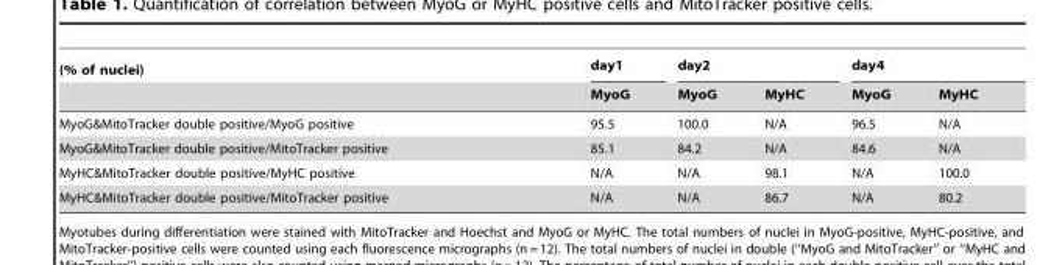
<table><thead><tr><td rowspan="2">(% of nuclei)</td><td rowspan="2">day1 MyoG</td><td colspan="2">day2</td><td colspan="2">day4</td></tr><tr><td>MyoG</td><td>MyHC</td><td>MyoG</td><td>MyHC</td></tr></thead><tbody><tr><td>MyoG&amp;MitoTracker double positive/MyoG positive</td><td>95.5</td><td>100.0</td><td>N/A</td><td>96.5</td><td>N/A</td></tr><tr><td>MyoG&amp;MitoTracker double positive/MitoTracker positive</td><td>85.1</td><td>84.2</td><td>N/A</td><td>84.6</td><td>N/A</td></tr><tr><td>MyHC&amp;MitoTracker double positive/MyHC positive</td><td>N/A</td><td>N/A</td><td>98.1</td><td>N/A</td><td>100.0</td></tr><tr><td>MyHC&amp;MitoTracker double positive/MitoTracker positive</td><td>N/A</td><td>N/A</td><td>86.7</td><td>N/A</td><td>80.2</td></tr></tbody></table>